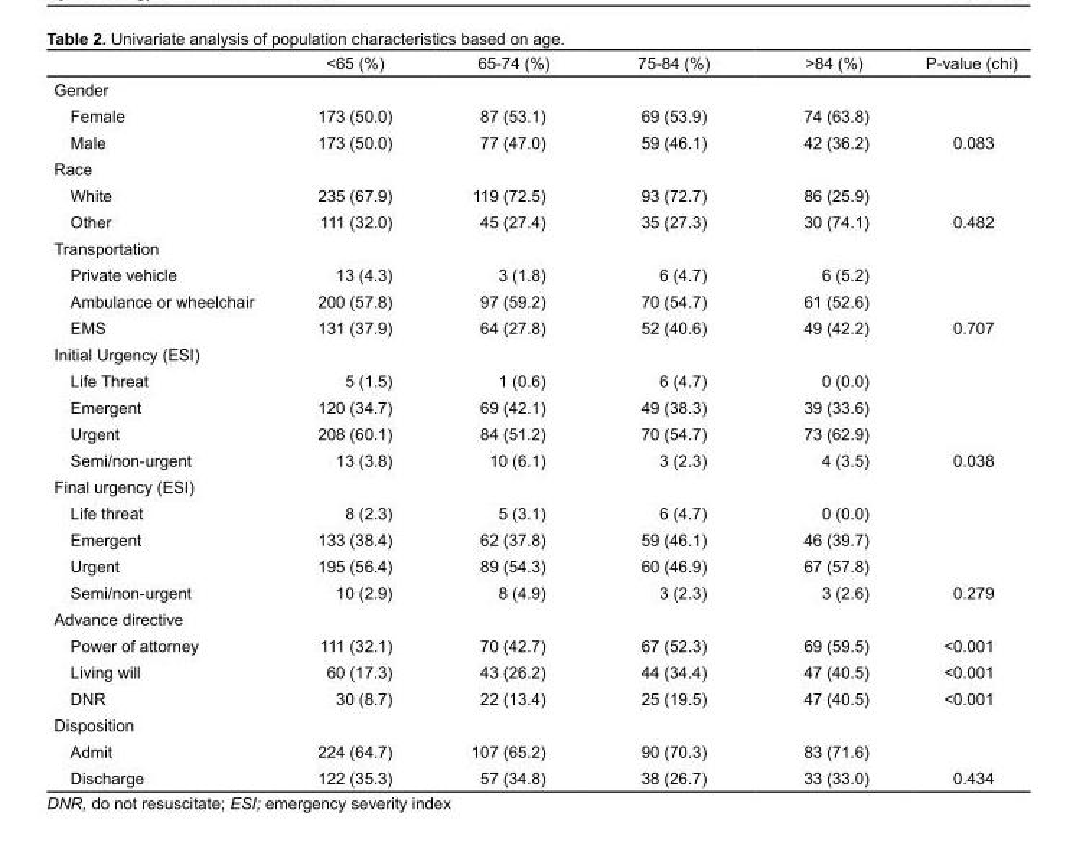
<table><thead><tr><td></td><td>&lt;65 (%)</td><td>65-74 (%)</td><td>75-84 (%)</td><td>&gt;84 (%)</td><td>P-value (chi)</td></tr></thead><tbody><tr><td colspan="6">Gender</td></tr><tr><td>Female</td><td>173 (50.0)</td><td>87 (53.1)</td><td>69 (53.9)</td><td>74 (63.8)</td><td></td></tr><tr><td>Male</td><td>173 (50.0)</td><td>77 (47.0)</td><td>59 (46.1)</td><td>42 (36.2)</td><td>0.083</td></tr><tr><td colspan="6">Race</td></tr><tr><td>White</td><td>235 (67.9)</td><td>119 (72.5)</td><td>93 (72.7)</td><td>86 (25.9)</td><td></td></tr><tr><td>Other</td><td>111 (32.0)</td><td>45 (27.4)</td><td>35 (27.3)</td><td>30 (74.1)</td><td>0.482</td></tr><tr><td colspan="6">Transportation</td></tr><tr><td>Private vehicle</td><td>13 (4.3)</td><td>3 (1.8)</td><td>6 (4.7)</td><td>6 (5.2)</td><td></td></tr><tr><td>Ambulance or wheelchair</td><td>200 (57.8)</td><td>97 (59.2)</td><td>70 (54.7)</td><td>61 (52.6)</td><td></td></tr><tr><td>EMS</td><td>131 (37.9)</td><td>64 (27.8)</td><td>52 (40.6)</td><td>49 (42.2)</td><td>0.707</td></tr><tr><td colspan="6">Initial Urgency (ESI)</td></tr><tr><td>Life Threat</td><td>5 (1.5)</td><td>1 (0.6)</td><td>6 (4.7)</td><td>0 (0.0)</td><td></td></tr><tr><td>Emergent</td><td>120 (34.7)</td><td>69 (42.1)</td><td>49 (38.3)</td><td>39 (33.6)</td><td></td></tr><tr><td>Urgent</td><td>208 (60.1)</td><td>84 (51.2)</td><td>70 (54.7)</td><td>73 (62.9)</td><td></td></tr><tr><td>Semi/non-urgent</td><td>13 (3.8)</td><td>10 (6.1)</td><td>3 (2.3)</td><td>4 (3.5)</td><td>0.038</td></tr><tr><td colspan="6">Final urgency (ESI)</td></tr><tr><td>Life threat</td><td>8 (2.3)</td><td>5 (3.1)</td><td>6 (4.7)</td><td>0 (0.0)</td><td></td></tr><tr><td>Emergent</td><td>133 (38.4)</td><td>62 (37.8)</td><td>59 (46.1)</td><td>46 (39.7)</td><td></td></tr><tr><td>Urgent</td><td>195 (56.4)</td><td>89 (54.3)</td><td>60 (46.9)</td><td>67 (57.8)</td><td></td></tr><tr><td>Semi/non-urgent</td><td>10 (2.9)</td><td>8 (4.9)</td><td>3 (2.3)</td><td>3 (2.6)</td><td>0.279</td></tr><tr><td colspan="6">Advance directive</td></tr><tr><td>Power of attorney</td><td>111 (32.1)</td><td>70 (42.7)</td><td>67 (52.3)</td><td>69 (59.5)</td><td>&lt;0.001</td></tr><tr><td>Living will</td><td>60 (17.3)</td><td>43 (26.2)</td><td>44 (34.4)</td><td>47 (40.5)</td><td>&lt;0.001</td></tr><tr><td>DNR</td><td>30 (8.7)</td><td>22 (13.4)</td><td>25 (19.5)</td><td>47 (40.5)</td><td>&lt;0.001</td></tr><tr><td colspan="6">Disposition</td></tr><tr><td>Admit</td><td>224 (64.7)</td><td>107 (65.2)</td><td>90 (70.3)</td><td>83 (71.6)</td><td></td></tr><tr><td>Discharge</td><td>122 (35.3)</td><td>57 (34.8)</td><td>38 (26.7)</td><td>33 (33.0)</td><td>0.434</td></tr></tbody></table>